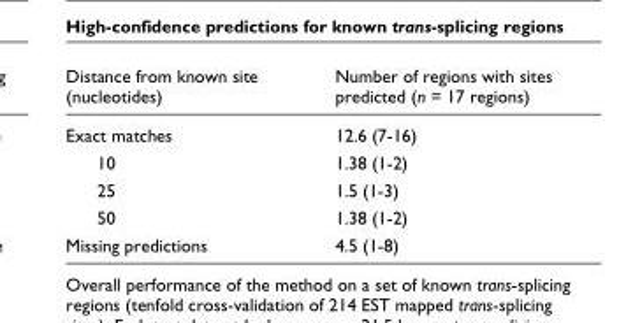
<table><thead><tr><td>Distance from known site (nucleotides)</td><td>Number of regions with sites predicted (n = 17 regions)</td></tr></thead><tbody><tr><td>Exact matches</td><td>12.6 (7-16)</td></tr><tr><td>10</td><td>1.38 (1-2)</td></tr><tr><td>25</td><td>1.5 (1-3)</td></tr><tr><td>50</td><td>1.38 (1-2)</td></tr><tr><td>Missing predictions</td><td>4.5 (1-8)</td></tr></tbody></table>